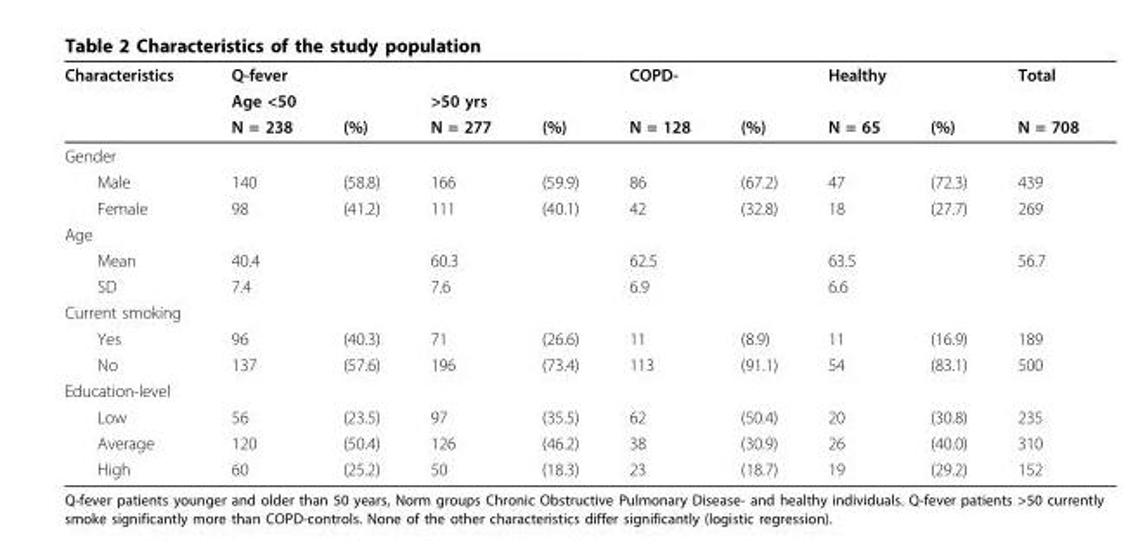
<table><thead><tr><td rowspan="3">Characteristics</td><td colspan="4">Q-fever</td><td colspan="2">COPD-</td><td colspan="2">Healthy</td><td rowspan="3">Total N = 708</td></tr><tr><td colspan="2">Age &lt;50</td><td colspan="2">&gt;50 yrs</td><td rowspan="2">N = 128</td><td rowspan="2">(%)</td><td rowspan="2">N = 65</td><td rowspan="2">(%)</td></tr><tr><td>N = 238</td><td>(%)</td><td>N = 277</td><td>(%)</td></tr></thead><tbody><tr><td colspan="10">Gender</td></tr><tr><td>Male</td><td>140</td><td>(58.8)</td><td>166</td><td>(59.9)</td><td>86</td><td>(67.2)</td><td>47</td><td>(72.3)</td><td>439</td></tr><tr><td>Female</td><td>98</td><td>(41.2)</td><td>111</td><td>(40.1)</td><td>42</td><td>(32.8)</td><td>18</td><td>(27.7)</td><td>269</td></tr><tr><td colspan="10">Age</td></tr><tr><td>Mean</td><td>40.4</td><td></td><td>60.3</td><td></td><td>62.5</td><td></td><td>63.5</td><td></td><td>56.7</td></tr><tr><td>SD</td><td>7.4</td><td></td><td>7.6</td><td></td><td>6.9</td><td></td><td>6.6</td><td></td><td></td></tr><tr><td colspan="10">Current smoking</td></tr><tr><td>Yes</td><td>96</td><td>(40.3)</td><td>71</td><td>(26.6)</td><td>11</td><td>(8.9)</td><td>11</td><td>(16.9)</td><td>189</td></tr><tr><td>No</td><td>137</td><td>(57.6)</td><td>196</td><td>(73.4)</td><td>113</td><td>(91.1)</td><td>54</td><td>(83.1)</td><td>500</td></tr><tr><td colspan="10">Education-level</td></tr><tr><td>Low</td><td>56</td><td>(23.5)</td><td>97</td><td>(35.5)</td><td>62</td><td>(50.4)</td><td>20</td><td>(30.8)</td><td>235</td></tr><tr><td>Average</td><td>120</td><td>(50.4)</td><td>126</td><td>(46.2)</td><td>38</td><td>(30.9)</td><td>26</td><td>(40.0)</td><td>310</td></tr><tr><td>High</td><td>60</td><td>(25.2)</td><td>50</td><td>(18.3)</td><td>23</td><td>(18.7)</td><td>19</td><td>(29.2)</td><td>152</td></tr></tbody></table>